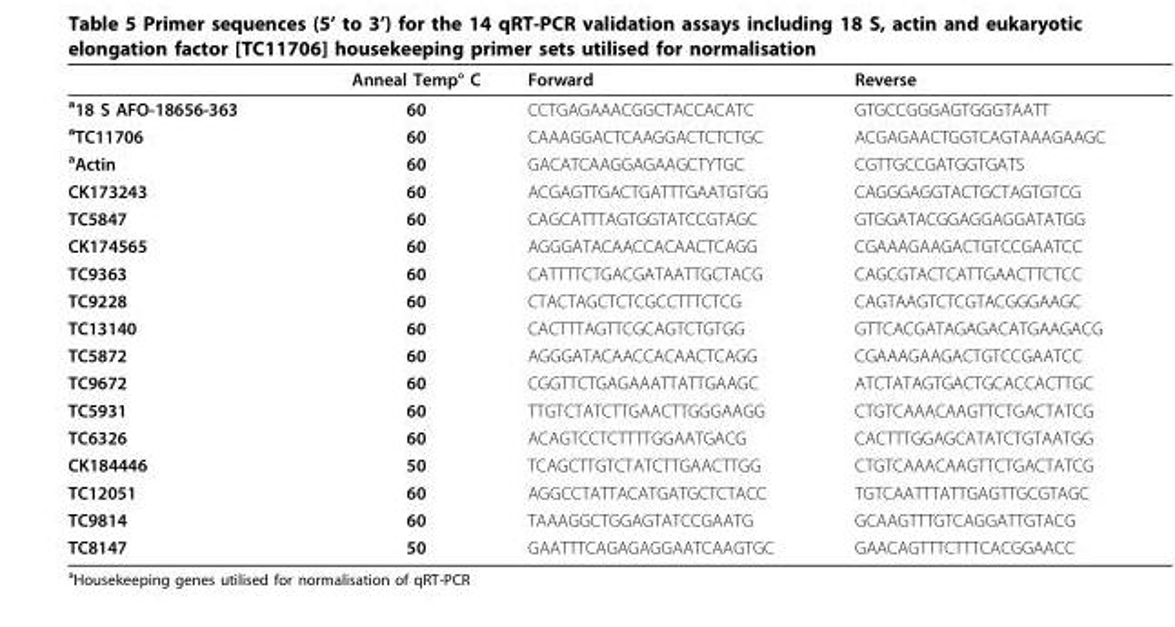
<table><thead><tr><td></td><td>Anneal Temp° C</td><td>Forward</td><td>Reverse</td></tr></thead><tbody><tr><td><sup>a</sup>18 S AFO-18656-363</td><td>60</td><td>CCTGAGAAACGGCTACCACATC</td><td>GTGCCGGGAGTGGGTAATT</td></tr><tr><td><sup>a</sup>TC11706</td><td>60</td><td>CAAAGGACTCAAGGACTCTCTGC</td><td>ACGAGAACTGGTCAGTAAAGAAGC</td></tr><tr><td><sup>a</sup>Actin</td><td>60</td><td>GACATCAAGGAGAAGCTYTGC</td><td>CGTTGCCGATGGTGATS</td></tr><tr><td>CK173243</td><td>60</td><td>ACGAGTTGACTGATTTGAATGTGG</td><td>CAGGGAGGTACTGCTAGTGTCG</td></tr><tr><td>TC5847</td><td>60</td><td>CAGCATTTAGTGGTATCCGTAGC</td><td>GTGGATACGGAGGAGGATATGG</td></tr><tr><td>CK174565</td><td>60</td><td>AGGGATACAACCACAACTCAGG</td><td>CGAAAGAAGACTGTCCGAATCC</td></tr><tr><td>TC9363</td><td>60</td><td>CATTTTCTGACGATAATTGCTACG</td><td>CAGCGTACTCATTGAACTTCTCC</td></tr><tr><td>TC9228</td><td>60</td><td>CTACTAGCTCTCGCCTTTCTCG</td><td>CAGTAAGTCTCGTACGGGAAGC</td></tr><tr><td>TC13140</td><td>60</td><td>CACTTTAGTTCGCAGTCTGTGG</td><td>GTTCACGATAGAGACATGAAGACG</td></tr><tr><td>TC5872</td><td>60</td><td>AGGGATACAACCACAACTCAGG</td><td>CGAAAGAAGACTGTCCGAATCC</td></tr><tr><td>TC9672</td><td>60</td><td>CGGTTCTGAGAAATTATTGAAGC</td><td>ATCTATAGTGACTGCACCACTTGC</td></tr><tr><td>TC5931</td><td>60</td><td>TTGTCTATCTTGAACTTGGGAAGG</td><td>CTGTCAAACAAGTTCTGACTATCG</td></tr><tr><td>TC6326</td><td>60</td><td>ACAGTCCTCTTTTGGAATGACG</td><td>CACTTTGGAGCATATCTGTAATGG</td></tr><tr><td>CK184446</td><td>50</td><td>TCAGCTTGTCTATCTTGAACTTGG</td><td>CTGTCAAACAAGTTCTGACTATCG</td></tr><tr><td>TC12051</td><td>60</td><td>AGGCCTATTACATGATGCTCTACC</td><td>TGTCAATTTATTGAGTTGCGTAGC</td></tr><tr><td>TC9814</td><td>60</td><td>TAAAGGCTGGAGTATCCGAATG</td><td>GCAAGTTTGTCAGGATTGTACG</td></tr><tr><td>TC8147</td><td>50</td><td>GAATTTCAGAGAGGAATCAAGTGC</td><td>GAACAGTTTCTTTCACGGAACC</td></tr></tbody></table>